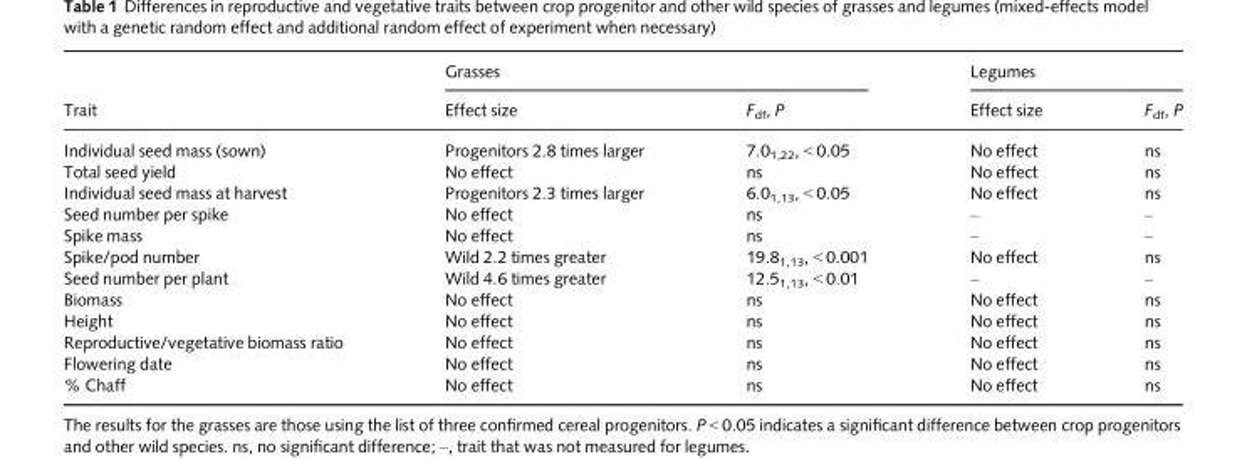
<table><thead><tr><td rowspan="2">Trait</td><td colspan="2">Grasses</td><td colspan="2">Legumes</td></tr><tr><td>Effect size</td><td>F<sub>df</sub>, P</td><td>Effect size</td><td>F<sub>df</sub>, P</td></tr></thead><tbody><tr><td>Individual seed mass (sown)</td><td>Progenitors 2.8 times larger</td><td>7.0<sub>1,22</sub>, &lt; 0.05</td><td>No effect</td><td>ns</td></tr><tr><td>Total seed yield</td><td>No effect</td><td>ns</td><td>No effect</td><td>ns</td></tr><tr><td>Individual seed mass at harvest</td><td>Progenitors 2.3 times larger</td><td>6.0<sub>1,13</sub>, &lt; 0.05</td><td>No effect</td><td>ns</td></tr><tr><td>Seed number per spike</td><td>No effect</td><td>ns</td><td>–</td><td>–</td></tr><tr><td>Spike mass</td><td>No effect</td><td>ns</td><td>–</td><td>–</td></tr><tr><td>Spike/pod number</td><td>Wild 2.2 times greater</td><td>19.8<sub>1,13</sub>, &lt; 0.001</td><td>No effect</td><td>ns</td></tr><tr><td>Seed number per plant</td><td>Wild 4.6 times greater</td><td>12.5<sub>1,13</sub>, &lt; 0.01</td><td>–</td><td>–</td></tr><tr><td>Biomass</td><td>No effect</td><td>ns</td><td>No effect</td><td>ns</td></tr><tr><td>Height</td><td>No effect</td><td>ns</td><td>No effect</td><td>ns</td></tr><tr><td>Reproductive/vegetative biomass ratio</td><td>No effect</td><td>ns</td><td>No effect</td><td>ns</td></tr><tr><td>Flowering date</td><td>No effect</td><td>ns</td><td>No effect</td><td>ns</td></tr><tr><td>% Chaff</td><td>No effect</td><td>ns</td><td>No effect</td><td>ns</td></tr></tbody></table>